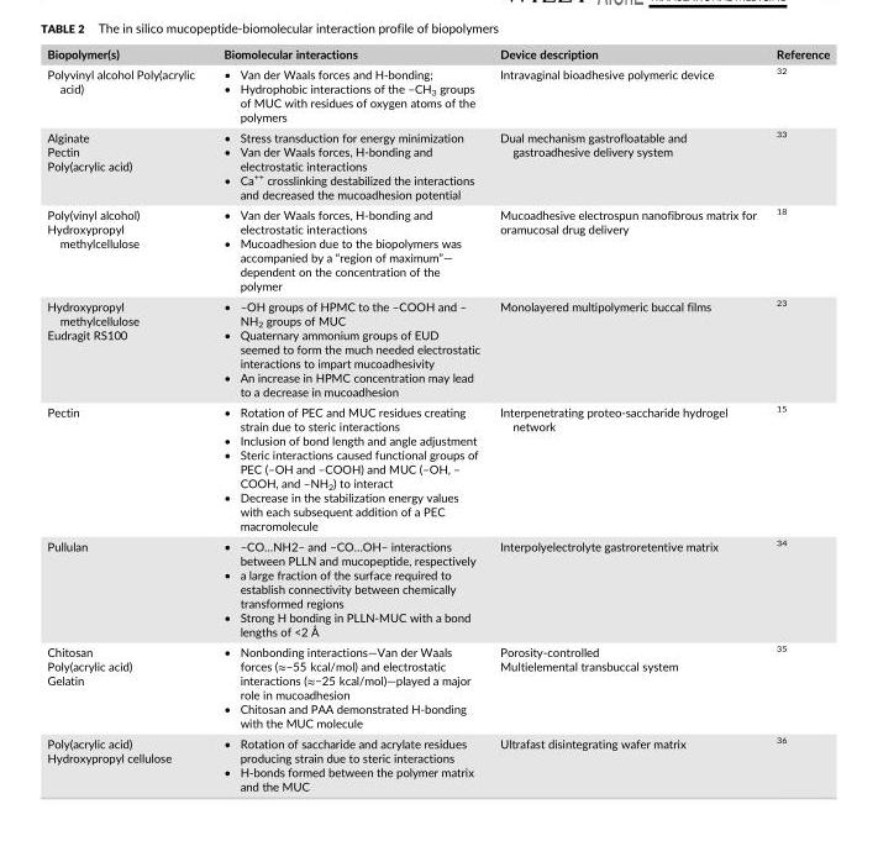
<table><thead><tr><td>Biopolymer(s)</td><td>Biomolecular interactions</td><td>Device description</td><td>Reference</td></tr></thead><tbody><tr><td>Polyvinyl alcohol Poly(acrylic acid)</td><td>• Van der Waals forces and H-bonding; • Hydrophobic interactions of the –CH3 groups of MUC with residues of oxygen atoms of the polymers</td><td>Intravaginal bioadhesive polymeric device</td><td>32</td></tr><tr><td>Alginate Pectin Poly(acrylic acid)</td><td>• Stress transduction for energy minimization • Van der Waals forces, H-bonding and electrostatic interactions • Ca++ crosslinking destabilized the interactions and decreased the mucoadhesion potential</td><td>Dual mechanism gastrofloatable and gastroadhesive delivery system</td><td>33</td></tr><tr><td>Poly(vinyl alcohol) Hydroxypropyl methylcellulose</td><td>• Van der Waals forces, H-bonding and electrostatic interactions • Mucoadhesion due to the biopolymers was accompanied by a “region of maximum”— dependent on the concentration of the polymer</td><td>Mucoadhesive electrospun nanofibrous matrix for oramucosal drug delivery</td><td>18</td></tr><tr><td>Hydroxypropyl methylcellulose Eudragit RS100</td><td>• –OH groups of HPMC to the –COOH and – NH2 groups of MUC • Quaternary ammonium groups of EUD seemed to form the much needed electrostatic interactions to impart mucoadhesivity • An increase in HPMC concentration may lead to a decrease in mucoadhesion</td><td>Monolayered multipolymeric buccal films</td><td>23</td></tr><tr><td>Pectin</td><td>• Rotation of PEC and MUC residues creating strain due to steric interactions • Inclusion of bond length and angle adjustment • Steric interactions caused functional groups of PEC (–OH and –COOH) and MUC (–OH, – COOH, and –NH2) to interact • Decrease in the stabilization energy values with each subsequent addition of a PEC macromolecule</td><td>Interpenetrating proteo-saccharide hydrogel network</td><td>15</td></tr><tr><td>Pullulan</td><td>• –CO…NH2– and –CO…OH– interactions between PLLN and mucopeptide, respectively • a large fraction of the surface required to establish connectivity between chemically transformed regions • Strong H bonding in PLLN-MUC with a bond lengths of &lt;2 Å</td><td>Interpolyelectrolyte gastroretentive matrix</td><td>34</td></tr><tr><td>Chitosan Poly(acrylic acid) Gelatin</td><td>• Nonbonding interactions—Van der Waals forces (≈−55 kcal/mol) and electrostatic interactions (≈−25 kcal/mol)—played a major role in mucoadhesion • Chitosan and PAA demonstrated H-bonding with the MUC molecule</td><td>Porosity-controlled Multielemental transbuccal system</td><td>35</td></tr><tr><td>Poly(acrylic acid) Hydroxypropyl cellulose</td><td>• Rotation of saccharide and acrylate residues producing strain due to steric interactions • H-bonds formed between the polymer matrix and the MUC</td><td>Ultrafast disintegrating wafer matrix</td><td>36</td></tr></tbody></table>